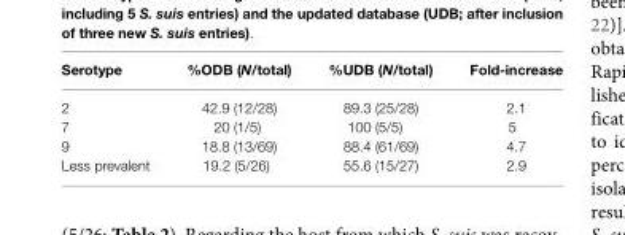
<table><thead><tr><td>Serotype</td><td>%ODB (N/total)</td><td>%UDB (N/total)</td><td>Fold-increase</td></tr></thead><tbody><tr><td>2</td><td>42.9 (12/28)</td><td>89.3 (25/28)</td><td>2.1</td></tr><tr><td>7</td><td>20 (1/5)</td><td>100 (5/5)</td><td>5</td></tr><tr><td>9</td><td>18.8 (13/69)</td><td>88.4 (61/69)</td><td>4.7</td></tr><tr><td>Less prevalent</td><td>19.2 (5/26)</td><td>55.6 (15/27)</td><td>2.9</td></tr></tbody></table>